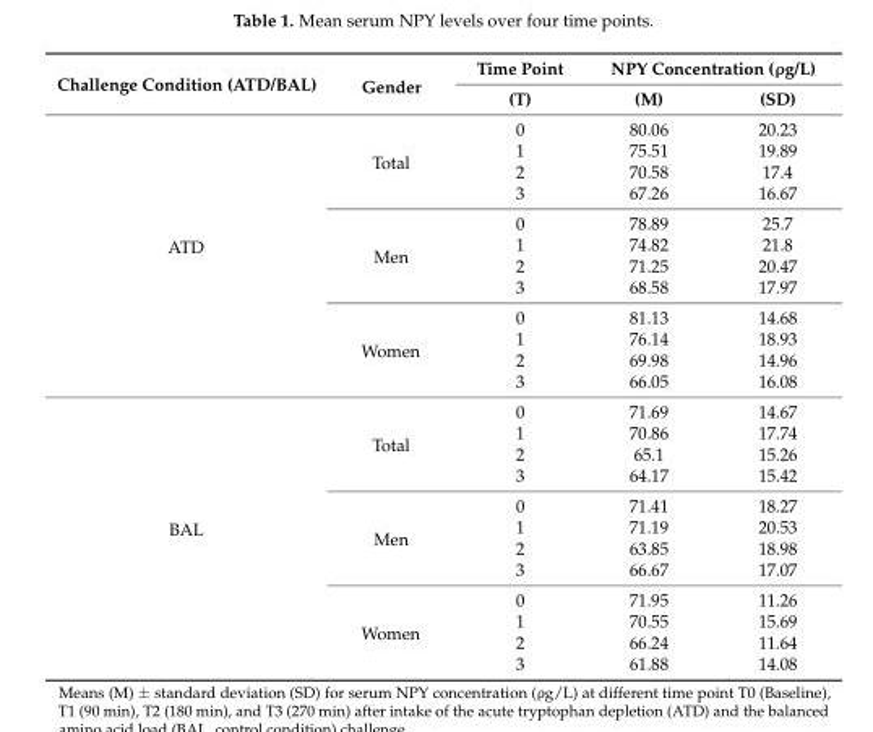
<table><thead><tr><td rowspan="2">Challenge Condition (ATD/BAL)</td><td rowspan="2">Gender</td><td rowspan="2">Time Point (T)</td><td colspan="2">NPY Concentration (ρg/L)</td></tr><tr><td>(M)</td><td>(SD)</td></tr></thead><tbody><tr><td rowspan="12">ATD</td><td rowspan="4">Total</td><td>0</td><td>80.06</td><td>20.23</td></tr><tr><td>1</td><td>75.51</td><td>19.89</td></tr><tr><td>2</td><td>70.58</td><td>17.4</td></tr><tr><td>3</td><td>67.26</td><td>16.67</td></tr><tr><td rowspan="4">Men</td><td>0</td><td>78.89</td><td>25.7</td></tr><tr><td>1</td><td>74.82</td><td>21.8</td></tr><tr><td>2</td><td>71.25</td><td>20.47</td></tr><tr><td>3</td><td>68.58</td><td>17.97</td></tr><tr><td rowspan="4">Women</td><td>0</td><td>81.13</td><td>14.68</td></tr><tr><td>1</td><td>76.14</td><td>18.93</td></tr><tr><td>2</td><td>69.98</td><td>14.96</td></tr><tr><td>3</td><td>66.05</td><td>16.08</td></tr><tr><td rowspan="12">BAL</td><td rowspan="4">Total</td><td>0</td><td>71.69</td><td>14.67</td></tr><tr><td>1</td><td>70.86</td><td>17.74</td></tr><tr><td>2</td><td>65.1</td><td>15.26</td></tr><tr><td>3</td><td>64.17</td><td>15.42</td></tr><tr><td rowspan="4">Men</td><td>0</td><td>71.41</td><td>18.27</td></tr><tr><td>1</td><td>71.19</td><td>20.53</td></tr><tr><td>2</td><td>63.85</td><td>18.98</td></tr><tr><td>3</td><td>66.67</td><td>17.07</td></tr><tr><td rowspan="4">Women</td><td>0</td><td>71.95</td><td>11.26</td></tr><tr><td>1</td><td>70.55</td><td>15.69</td></tr><tr><td>2</td><td>66.24</td><td>11.64</td></tr><tr><td>3</td><td>61.88</td><td>14.08</td></tr></tbody></table>